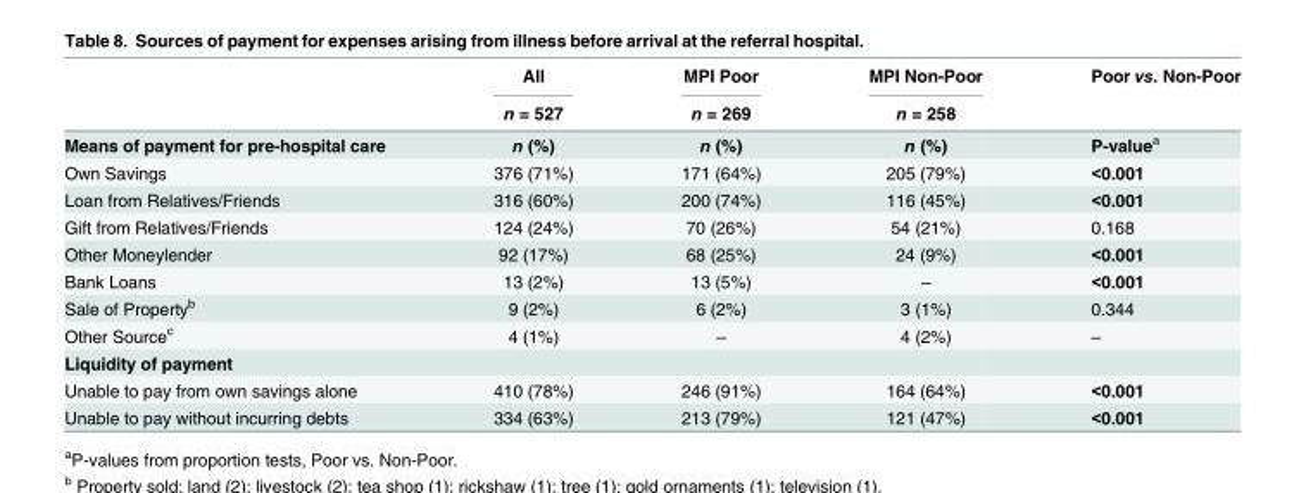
<table><thead><tr><td rowspan="2"></td><td rowspan="2">All n = 527</td><td rowspan="2">MPI Poor n = 269</td><td rowspan="2">MPI Non-Poor n = 258</td><td rowspan="2">Poor vs. Non-Poor</td></tr><tr></tr></thead><tbody><tr><td>Means of payment for pre-hospital care</td><td>n (%)</td><td>n (%)</td><td>n (%)</td><td>P-value<sup>a</sup></td></tr><tr><td>Own Savings</td><td>376 (71%)</td><td>171 (64%)</td><td>205 (79%)</td><td>&lt;0.001</td></tr><tr><td>Loan from Relatives/Friends</td><td>316 (60%)</td><td>200 (74%)</td><td>116 (45%)</td><td>&lt;0.001</td></tr><tr><td>Gift from Relatives/Friends</td><td>124 (24%)</td><td>70 (26%)</td><td>54 (21%)</td><td>0.168</td></tr><tr><td>Other Moneylender</td><td>92 (17%)</td><td>68 (25%)</td><td>24 (9%)</td><td>&lt;0.001</td></tr><tr><td>Bank Loans</td><td>13 (2%)</td><td>13 (5%)</td><td>–</td><td>&lt;0.001</td></tr><tr><td>Sale of Property<sup>b</sup></td><td>9 (2%)</td><td>6 (2%)</td><td>3 (1%)</td><td>0.344</td></tr><tr><td>Other Source<sup>c</sup></td><td>4 (1%)</td><td>–</td><td>4 (2%)</td><td>–</td></tr><tr><td colspan="5">Liquidity of payment</td></tr><tr><td>Unable to pay from own savings alone</td><td>410 (78%)</td><td>246 (91%)</td><td>164 (64%)</td><td>&lt;0.001</td></tr><tr><td>Unable to pay without incurring debts</td><td>334 (63%)</td><td>213 (79%)</td><td>121 (47%)</td><td>&lt;0.001</td></tr></tbody></table>